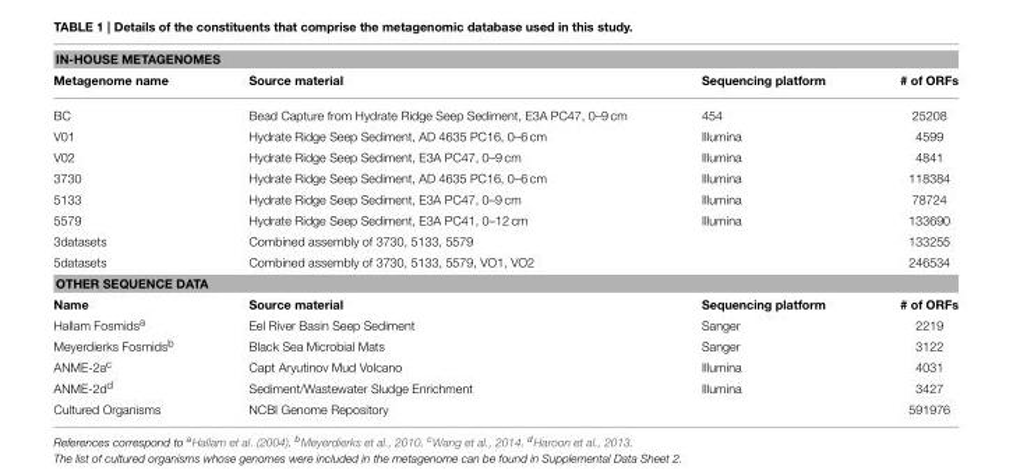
<table><thead><tr><td colspan="4">IN-HOUSE METAGENOMES</td></tr><tr><td>Metagenome name</td><td>Source material</td><td>Sequencing platform</td><td># of ORFs</td></tr></thead><tbody><tr><td>BC</td><td>Bead Capture from Hydrate Ridge Seep Sediment, E3A PC47, 0–9 cm</td><td>454</td><td>25208</td></tr><tr><td>V01</td><td>Hydrate Ridge Seep Sediment, AD 4635 PC16, 0–6 cm</td><td>Illumina</td><td>4599</td></tr><tr><td>V02</td><td>Hydrate Ridge Seep Sediment, E3A PC47, 0–9 cm</td><td>Illumina</td><td>4841</td></tr><tr><td>3730</td><td>Hydrate Ridge Seep Sediment, AD 4635 PC16, 0–6 cm</td><td>Illumina</td><td>118384</td></tr><tr><td>5133</td><td>Hydrate Ridge Seep Sediment, E3A PC47, 0–9 cm</td><td>Illumina</td><td>78724</td></tr><tr><td>5579</td><td>Hydrate Ridge Seep Sediment, E3A PC41, 0–12 cm</td><td>Illumina</td><td>133690</td></tr><tr><td>3datasets</td><td>Combined assembly of 3730, 5133, 5579</td><td></td><td>133255</td></tr><tr><td>5datasets</td><td>Combined assembly of 3730, 5133, 5579, VO1, VO2</td><td></td><td>246534</td></tr><tr><td colspan="4">OTHER SEQUENCE DATA</td></tr><tr><td>Name</td><td>Source material</td><td>Sequencing platform</td><td># of ORFs</td></tr><tr><td>Hallam Fosmids<sup>a</sup></td><td>Eel River Basin Seep Sediment</td><td>Sanger</td><td>2219</td></tr><tr><td>Meyerdierks Fosmids<sup>b</sup></td><td>Black Sea Microbial Mats</td><td>Sanger</td><td>3122</td></tr><tr><td>ANME-2a<sup>c</sup></td><td>Capt Aryutinov Mud Volcano</td><td>Illumina</td><td>4031</td></tr><tr><td>ANME-2d<sup>d</sup></td><td>Sediment/Wastewater Sludge Enrichment</td><td>Illumina</td><td>3427</td></tr><tr><td>Cultured Organisms</td><td>NCBI Genome Repository</td><td></td><td>591976</td></tr></tbody></table>